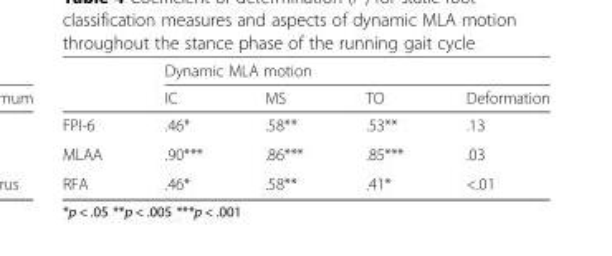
<table><thead><tr><td rowspan="2"></td><td colspan="4">Dynamic MLA motion</td></tr><tr><td>IC</td><td>MS</td><td>TO</td><td>Deformation</td></tr></thead><tbody><tr><td>FPI-6</td><td>.46*</td><td>.58**</td><td>.53**</td><td>.13</td></tr><tr><td>MLAA</td><td>.90***</td><td>.86***</td><td>.85***</td><td>.03</td></tr><tr><td>RFA</td><td>.46*</td><td>.58**</td><td>.41*</td><td>&lt;.01</td></tr></tbody></table>